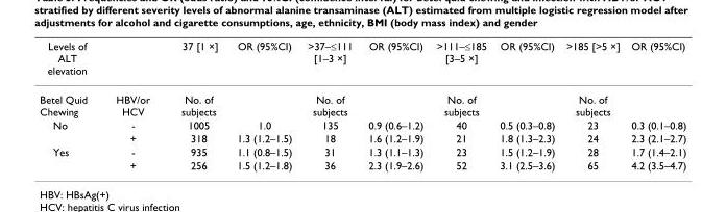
<table><thead><tr><td>Levels of ALT elevation</td><td></td><td>37 [1 ×]</td><td>OR (95%CI)</td><td>&gt;37–≤111 [1–3 ×]</td><td>OR (95%CI)</td><td>&gt;111–≤185 [3–5 ×]</td><td>OR (95%CI)</td><td>&gt;185 [&gt;5 ×]</td><td>OR (95%CI)</td></tr></thead><tbody><tr><td>Betel Quid Chewing</td><td>HBV/or HCV</td><td>No. of subjects</td><td></td><td>No. of subjects</td><td></td><td>No. of subjects</td><td></td><td>No. of subjects</td><td></td></tr><tr><td rowspan="2">No</td><td>-</td><td>1005</td><td>1.0</td><td>135</td><td>0.9 (0.6–1.2)</td><td>40</td><td>0.5 (0.3–0.8)</td><td>23</td><td>0.3 (0.1–0.8)</td></tr><tr><td>+</td><td>318</td><td>1.3 (1.2–1.5)</td><td>18</td><td>1.6 (1.2–1.9)</td><td>21</td><td>1.8 (1.3–2.3)</td><td>24</td><td>2.3 (2.1–2.7)</td></tr><tr><td rowspan="2">Yes</td><td>-</td><td>935</td><td>1.1 (0.8–1.5)</td><td>31</td><td>1.3 (1.1–1.3)</td><td>23</td><td>1.5 (1.2–1.9)</td><td>28</td><td>1.7 (1.4–2.1)</td></tr><tr><td>+</td><td>256</td><td>1.5 (1.2–1.8)</td><td>36</td><td>2.3 (1.9–2.6)</td><td>52</td><td>3.1 (2.5–3.6)</td><td>65</td><td>4.2 (3.5–4.7)</td></tr></tbody></table>